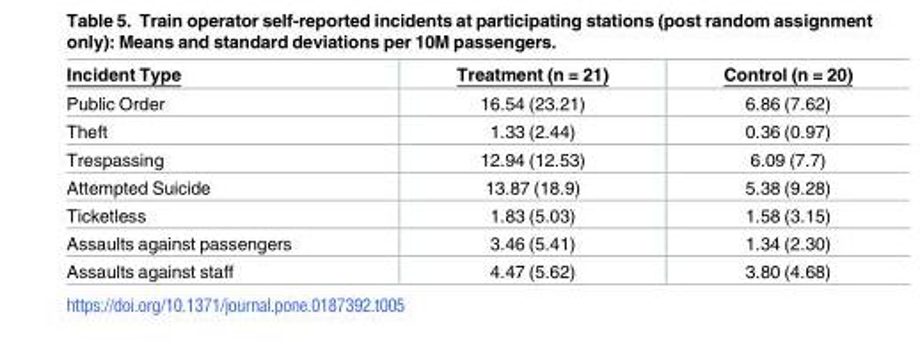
<table><thead><tr><td>Incident Type</td><td>Treatment (n = 21)</td><td>Control (n = 20)</td></tr></thead><tbody><tr><td>Public Order</td><td>16.54 (23.21)</td><td>6.86 (7.62)</td></tr><tr><td>Theft</td><td>1.33 (2.44)</td><td>0.36 (0.97)</td></tr><tr><td>Trespassing</td><td>12.94 (12.53)</td><td>6.09 (7.7)</td></tr><tr><td>Attempted Suicide</td><td>13.87 (18.9)</td><td>5.38 (9.28)</td></tr><tr><td>Ticketless</td><td>1.83 (5.03)</td><td>1.58 (3.15)</td></tr><tr><td>Assaults against passengers</td><td>3.46 (5.41)</td><td>1.34 (2.30)</td></tr><tr><td>Assaults against staff</td><td>4.47 (5.62)</td><td>3.80 (4.68)</td></tr></tbody></table>